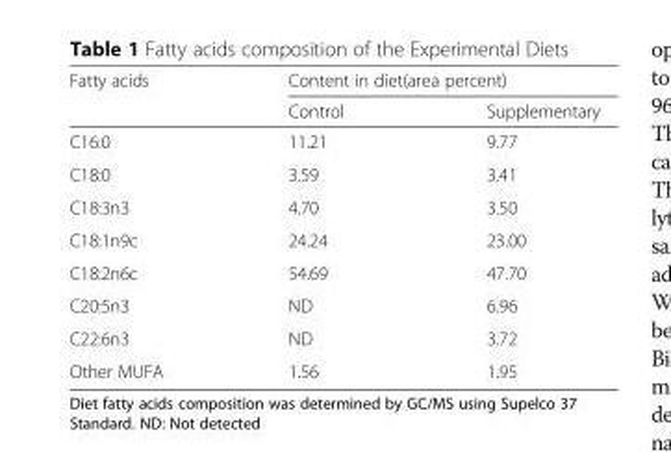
<table><thead><tr><td rowspan="2">Fatty acids</td><td colspan="2">Content in diet(area percent)</td></tr><tr><td>Control</td><td>Supplementary</td></tr></thead><tbody><tr><td>C16:0</td><td>11.21</td><td>9.77</td></tr><tr><td>C18:0</td><td>3.59</td><td>3.41</td></tr><tr><td>C18:3n3</td><td>4.70</td><td>3.50</td></tr><tr><td>C18:1n9c</td><td>24.24</td><td>23.00</td></tr><tr><td>C18:2n6c</td><td>54.69</td><td>47.70</td></tr><tr><td>C20:5n3</td><td>ND</td><td>6.96</td></tr><tr><td>C22:6n3</td><td>ND</td><td>3.72</td></tr><tr><td>Other MUFA</td><td>1.56</td><td>1.95</td></tr></tbody></table>